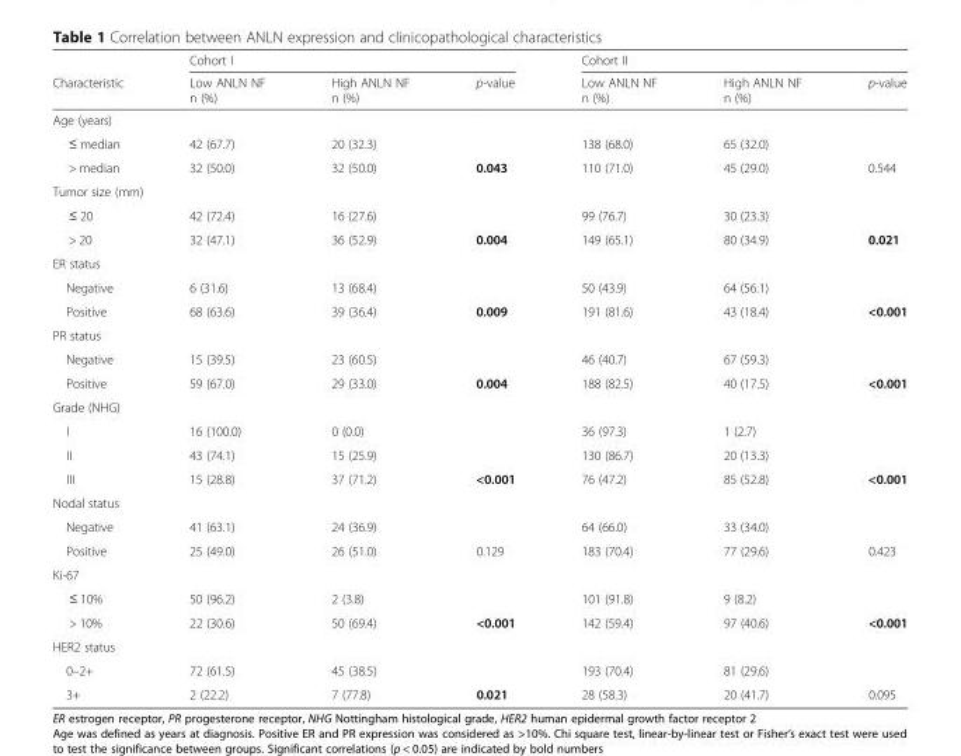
<table><thead><tr><td rowspan="2">Characteristic</td><td colspan="3">Cohort I</td><td colspan="3">Cohort II</td></tr><tr><td>Low ANLN NF n (%)</td><td>High ANLN NF n (%)</td><td>p-value</td><td>Low ANLN NF n (%)</td><td>High ANLN NF n (%)</td><td>p-value</td></tr></thead><tbody><tr><td colspan="7">Age (years)</td></tr><tr><td>≤ median</td><td>42 (67.7)</td><td>20 (32.3)</td><td></td><td>138 (68.0)</td><td>65 (32.0)</td><td></td></tr><tr><td>&gt; median</td><td>32 (50.0)</td><td>32 (50.0)</td><td>0.043</td><td>110 (71.0)</td><td>45 (29.0)</td><td>0.544</td></tr><tr><td colspan="7">Tumor size (mm)</td></tr><tr><td>≤ 20</td><td>42 (72.4)</td><td>16 (27.6)</td><td></td><td>99 (76.7)</td><td>30 (23.3)</td><td></td></tr><tr><td>&gt; 20</td><td>32 (47.1)</td><td>36 (52.9)</td><td>0.004</td><td>149 (65.1)</td><td>80 (34.9)</td><td>0.021</td></tr><tr><td colspan="7">ER status</td></tr><tr><td>Negative</td><td>6 (31.6)</td><td>13 (68.4)</td><td></td><td>50 (43.9)</td><td>64 (56.1)</td><td></td></tr><tr><td>Positive</td><td>68 (63.6)</td><td>39 (36.4)</td><td>0.009</td><td>191 (81.6)</td><td>43 (18.4)</td><td>&lt;0.001</td></tr><tr><td colspan="7">PR status</td></tr><tr><td>Negative</td><td>15 (39.5)</td><td>23 (60.5)</td><td></td><td>46 (40.7)</td><td>67 (59.3)</td><td></td></tr><tr><td>Positive</td><td>59 (67.0)</td><td>29 (33.0)</td><td>0.004</td><td>188 (82.5)</td><td>40 (17.5)</td><td>&lt;0.001</td></tr><tr><td colspan="7">Grade (NHG)</td></tr><tr><td>I</td><td>16 (100.0)</td><td>0 (0.0)</td><td></td><td>36 (97.3)</td><td>1 (2.7)</td><td></td></tr><tr><td>II</td><td>43 (74.1)</td><td>15 (25.9)</td><td></td><td>130 (86.7)</td><td>20 (13.3)</td><td></td></tr><tr><td>III</td><td>15 (28.8)</td><td>37 (71.2)</td><td>&lt;0.001</td><td>76 (47.2)</td><td>85 (52.8)</td><td>&lt;0.001</td></tr><tr><td colspan="7">Nodal status</td></tr><tr><td>Negative</td><td>41 (63.1)</td><td>24 (36.9)</td><td></td><td>64 (66.0)</td><td>33 (34.0)</td><td></td></tr><tr><td>Positive</td><td>25 (49.0)</td><td>26 (51.0)</td><td>0.129</td><td>183 (70.4)</td><td>77 (29.6)</td><td>0.423</td></tr><tr><td colspan="7">Ki-67</td></tr><tr><td>≤ 10%</td><td>50 (96.2)</td><td>2 (3.8)</td><td></td><td>101 (91.8)</td><td>9 (8.2)</td><td></td></tr><tr><td>&gt; 10%</td><td>22 (30.6)</td><td>50 (69.4)</td><td>&lt;0.001</td><td>142 (59.4)</td><td>97 (40.6)</td><td>&lt;0.001</td></tr><tr><td colspan="7">HER2 status</td></tr><tr><td>0–2+</td><td>72 (61.5)</td><td>45 (38.5)</td><td></td><td>193 (70.4)</td><td>81 (29.6)</td><td></td></tr><tr><td>3+</td><td>2 (22.2)</td><td>7 (77.8)</td><td>0.021</td><td>28 (58.3)</td><td>20 (41.7)</td><td>0.095</td></tr></tbody></table>